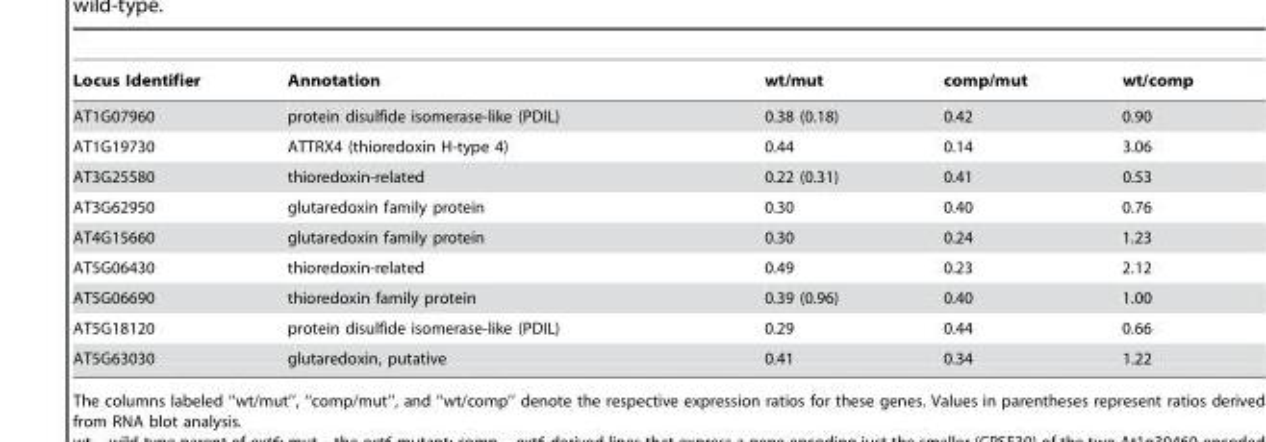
<table><thead><tr><td>Locus Identifier</td><td>Annotation</td><td>wt/mut</td><td>comp/mut</td><td>wt/comp</td></tr></thead><tbody><tr><td>AT1G07960</td><td>protein disulfide isomerase-like (PDIL)</td><td>0.38 (0.18)</td><td>0.42</td><td>0.90</td></tr><tr><td>AT1G19730</td><td>ATTRX4 (thioredoxin H-type 4)</td><td>0.44</td><td>0.14</td><td>3.06</td></tr><tr><td>AT3G25580</td><td>thioredoxin-related</td><td>0.22 (0.31)</td><td>0.41</td><td>0.53</td></tr><tr><td>AT3G62950</td><td>glutaredoxin family protein</td><td>0.30</td><td>0.40</td><td>0.76</td></tr><tr><td>AT4G15660</td><td>glutaredoxin family protein</td><td>0.30</td><td>0.24</td><td>1.23</td></tr><tr><td>AT5G06430</td><td>thioredoxin-related</td><td>0.49</td><td>0.23</td><td>2.12</td></tr><tr><td>AT5G06690</td><td>thioredoxin family protein</td><td>0.39 (0.96)</td><td>0.40</td><td>1.00</td></tr><tr><td>AT5G18120</td><td>protein disulfide isomerase-like (PDIL)</td><td>0.29</td><td>0.44</td><td>0.66</td></tr><tr><td>AT5G63030</td><td>glutaredoxin, putative</td><td>0.41</td><td>0.34</td><td>1.22</td></tr></tbody></table>